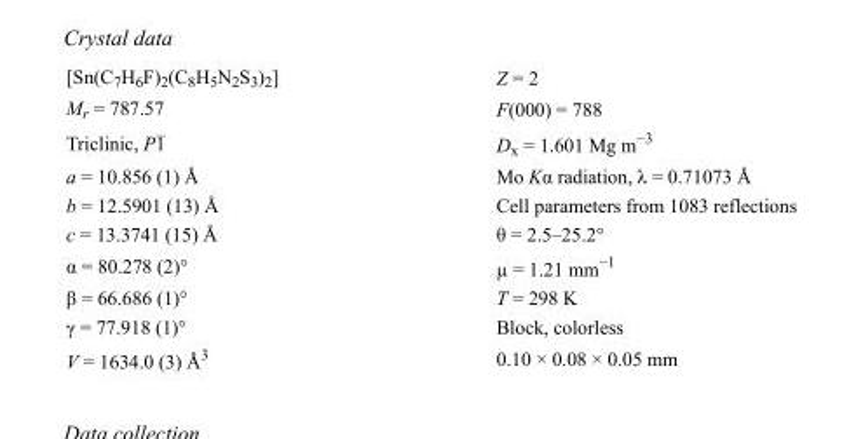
<table><tbody><tr><td>[Sn(C<sub>7</sub>H<sub>6</sub>F)<sub>2</sub>(C<sub>8</sub>H<sub>5</sub>N<sub>2</sub>S<sub>3</sub>)<sub>2</sub>]</td><td>Z = 2</td></tr><tr><td>M<sub>r</sub> = 787.57</td><td>F(000) = 788</td></tr><tr><td>Triclinic, P1</td><td>D<sub>x</sub> = 1.601 Mg m<sup>−3</sup></td></tr><tr><td>a = 10.856 (1) Å</td><td>Mo Kα radiation, λ = 0.71073 Å</td></tr><tr><td>b = 12.5901 (13) Å</td><td>Cell parameters from 1083 reflections</td></tr><tr><td>c = 13.3741 (15) Å</td><td>θ = 2.5–25.2°</td></tr><tr><td>α = 80.278 (2)°</td><td>µ = 1.21 mm<sup>−1</sup></td></tr><tr><td>β = 66.686 (1)°</td><td>T = 298 K</td></tr><tr><td>γ = 77.918 (1)°</td><td>Block, colorless</td></tr><tr><td>V = 1634.0 (3) Å<sup>3</sup></td><td>0.10 × 0.08 × 0.05 mm</td></tr></tbody></table>